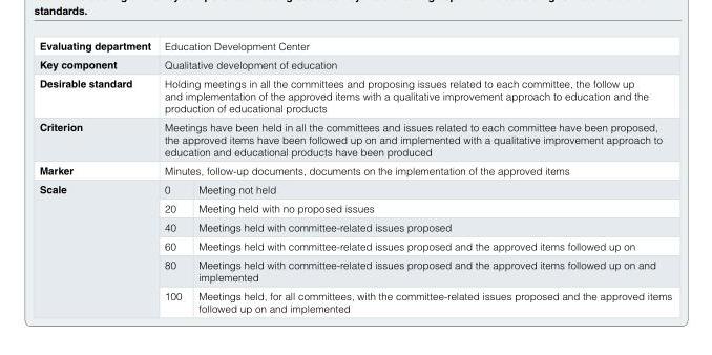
<table><tbody><tr><td>Evaluating department</td><td colspan="2">Education Development Center</td></tr><tr><td>Key component</td><td colspan="2">Qualitative development of education</td></tr><tr><td>Desirable standard</td><td colspan="2">Holding meetings in all the committees and proposing issues related to each committee, the follow up and implementation of the approved items with a qualitative improvement approach to education and the production of educational products</td></tr><tr><td>Criterion</td><td colspan="2">Meetings have been held in all the committees and issues related to each committee have been proposed, the approved items have been followed up on and implemented with a qualitative improvement approach to education and educational products have been produced</td></tr><tr><td>Marker</td><td colspan="2">Minutes, follow-up documents, documents on the implementation of the approved items</td></tr><tr><td rowspan="6">Scale</td><td>0</td><td>Meeting not held</td></tr><tr><td>20</td><td>Meeting held with no proposed issues</td></tr><tr><td>40</td><td>Meetings held with committee-related issues proposed</td></tr><tr><td>60</td><td>Meetings held with committee-related issues proposed and the approved items followed up on</td></tr><tr><td>80</td><td>Meetings held with committee-related issues proposed and the approved items followed up on and implemented</td></tr><tr><td>100</td><td>Meetings held, for all committees, with the committee-related issues proposed and the approved items followed up on and implemented</td></tr></tbody></table>